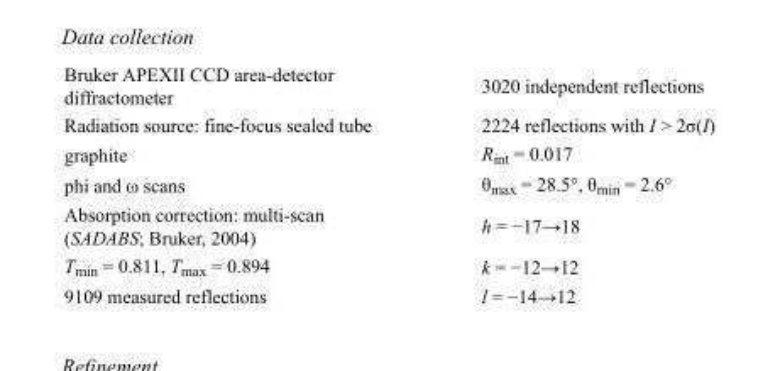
<table><tbody><tr><td>Bruker APEXII CCD area-detector diffractometer</td><td>3020 independent reflections</td></tr><tr><td>Radiation source: fine-focus sealed tube</td><td>2224 reflections with I &gt; 2σ(I)</td></tr><tr><td>graphite</td><td>R<sub>int</sub> = 0.017</td></tr><tr><td>phi and ω scans</td><td>θ<sub>max</sub> = 28.5°, θ<sub>min</sub> = 2.6°</td></tr><tr><td>Absorption correction: multi-scan (SADABS; Bruker, 2004)</td><td>h = −17→18</td></tr><tr><td>T<sub>min</sub> = 0.811, T<sub>max</sub> = 0.894</td><td>k = −12→12</td></tr><tr><td>9109 measured reflections</td><td>l = −14→12</td></tr></tbody></table>